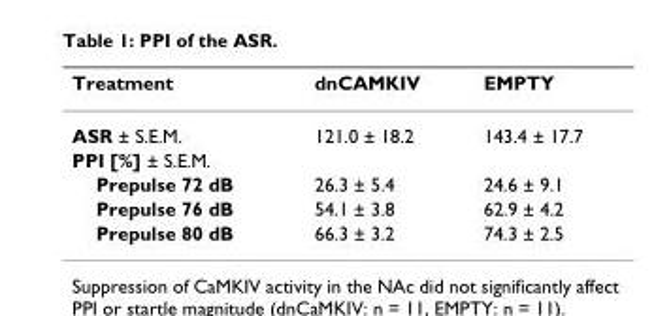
<table><thead><tr><td>Treatment</td><td>dnCAMKIV</td><td>EMPTY</td></tr></thead><tbody><tr><td>ASR ± S.E.M.</td><td>121.0 ± 18.2</td><td>143.4 ± 17.7</td></tr><tr><td colspan="3">PPI [%] ± S.E.M.</td></tr><tr><td>Prepulse 72 dB</td><td>26.3 ± 5.4</td><td>24.6 ± 9.1</td></tr><tr><td>Prepulse 76 dB</td><td>54.1 ± 3.8</td><td>62.9 ± 4.2</td></tr><tr><td>Prepulse 80 dB</td><td>66.3 ± 3.2</td><td>74.3 ± 2.5</td></tr></tbody></table>